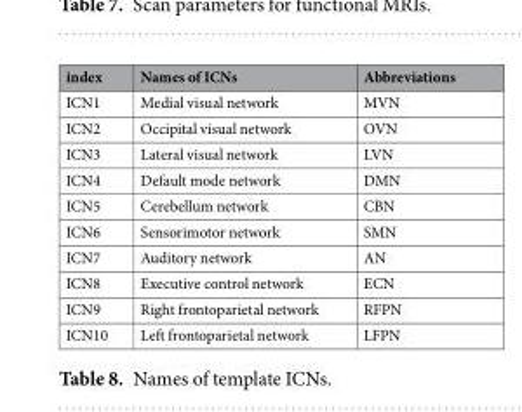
<table><thead><tr><td>index</td><td>Names of ICNs</td><td>Abbreviations</td></tr></thead><tbody><tr><td>ICN1</td><td>Medial visual network</td><td>MVN</td></tr><tr><td>ICN2</td><td>Occipital visual network</td><td>OVN</td></tr><tr><td>ICN3</td><td>Lateral visual network</td><td>LVN</td></tr><tr><td>ICN4</td><td>Default mode network</td><td>DMN</td></tr><tr><td>ICN5</td><td>Cerebellum network</td><td>CBN</td></tr><tr><td>ICN6</td><td>Sensorimotor network</td><td>SMN</td></tr><tr><td>ICN7</td><td>Auditory network</td><td>AN</td></tr><tr><td>ICN8</td><td>Executive control network</td><td>ECN</td></tr><tr><td>ICN9</td><td>Right frontoparietal network</td><td>RFPN</td></tr><tr><td>ICN10</td><td>Left frontoparietal network</td><td>LFPN</td></tr></tbody></table>